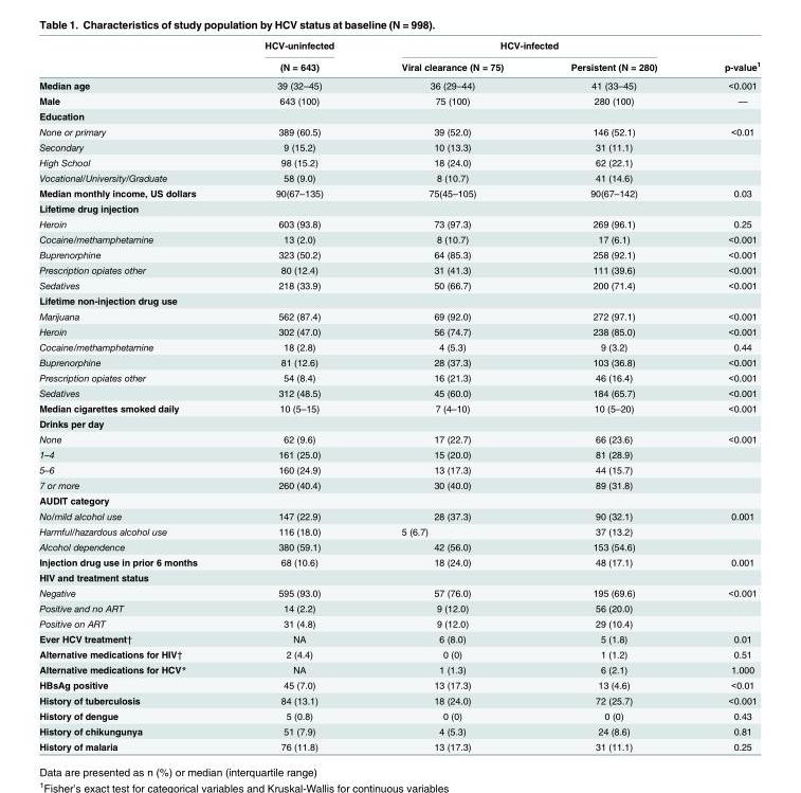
<table><thead><tr><td rowspan="2"></td><td rowspan="2">HCV-uninfected (N = 643)</td><td colspan="2">HCV-infected</td><td rowspan="2">p-value<sup>1</sup></td></tr><tr><td>Viral clearance (N = 75)</td><td>Persistent (N = 280)</td></tr></thead><tbody><tr><td>Median age</td><td>39 (32–45)</td><td>36 (29–44)</td><td>41 (33–45)</td><td>&lt;0.001</td></tr><tr><td>Male</td><td>643 (100)</td><td>75 (100)</td><td>280 (100)</td><td>—</td></tr><tr><td colspan="5">Education</td></tr><tr><td>None or primary</td><td>389 (60.5)</td><td>39 (52.0)</td><td>146 (52.1)</td><td>&lt;0.01</td></tr><tr><td>Secondary</td><td>9 (15.2)</td><td>10 (13.3)</td><td>31 (11.1)</td><td></td></tr><tr><td>High School</td><td>98 (15.2)</td><td>18 (24.0)</td><td>62 (22.1)</td><td></td></tr><tr><td>Vocational/University/Graduate</td><td>58 (9.0)</td><td>8 (10.7)</td><td>41 (14.6)</td><td></td></tr><tr><td>Median monthly income, US dollars</td><td>90(67–135)</td><td>75(45–105)</td><td>90(67–142)</td><td>0.03</td></tr><tr><td colspan="5">Lifetime drug injection</td></tr><tr><td>Heroin</td><td>603 (93.8)</td><td>73 (97.3)</td><td>269 (96.1)</td><td>0.25</td></tr><tr><td>Cocaine/methamphetamine</td><td>13 (2.0)</td><td>8 (10.7)</td><td>17 (6.1)</td><td>&lt;0.001</td></tr><tr><td>Buprenorphine</td><td>323 (50.2)</td><td>64 (85.3)</td><td>258 (92.1)</td><td>&lt;0.001</td></tr><tr><td>Prescription opiates other</td><td>80 (12.4)</td><td>31 (41.3)</td><td>111 (39.6)</td><td>&lt;0.001</td></tr><tr><td>Sedatives</td><td>218 (33.9)</td><td>50 (66.7)</td><td>200 (71.4)</td><td>&lt;0.001</td></tr><tr><td colspan="5">Lifetime non-injection drug use</td></tr><tr><td>Marijuana</td><td>562 (87.4)</td><td>69 (92.0)</td><td>272 (97.1)</td><td>&lt;0.001</td></tr><tr><td>Heroin</td><td>302 (47.0)</td><td>56 (74.7)</td><td>238 (85.0)</td><td>&lt;0.001</td></tr><tr><td>Cocaine/methamphetamine</td><td>18 (2.8)</td><td>4 (5.3)</td><td>9 (3.2)</td><td>0.44</td></tr><tr><td>Buprenorphine</td><td>81 (12.6)</td><td>28 (37.3)</td><td>103 (36.8)</td><td>&lt;0.001</td></tr><tr><td>Prescription opiates other</td><td>54 (8.4)</td><td>16 (21.3)</td><td>46 (16.4)</td><td>&lt;0.001</td></tr><tr><td>Sedatives</td><td>312 (48.5)</td><td>45 (60.0)</td><td>184 (65.7)</td><td>&lt;0.001</td></tr><tr><td>Median cigarettes smoked daily</td><td>10 (5–15)</td><td>7 (4–10)</td><td>10 (5–20)</td><td>&lt;0.001</td></tr><tr><td colspan="5">Drinks per day</td></tr><tr><td>None</td><td>62 (9.6)</td><td>17 (22.7)</td><td>66 (23.6)</td><td>&lt;0.001</td></tr><tr><td>1–4</td><td>161 (25.0)</td><td>15 (20.0)</td><td>81 (28.9)</td><td></td></tr><tr><td>5–6</td><td>160 (24.9)</td><td>13 (17.3)</td><td>44 (15.7)</td><td></td></tr><tr><td>7 or more</td><td>260 (40.4)</td><td>30 (40.0)</td><td>89 (31.8)</td><td></td></tr><tr><td colspan="5">AUDIT category</td></tr><tr><td>No/mild alcohol use</td><td>147 (22.9)</td><td>28 (37.3)</td><td>90 (32.1)</td><td>0.001</td></tr><tr><td>Harmful/hazardous alcohol use</td><td>116 (18.0)</td><td>5 (6.7)</td><td>37 (13.2)</td><td></td></tr><tr><td>Alcohol dependence</td><td>380 (59.1)</td><td>42 (56.0)</td><td>153 (54.6)</td><td></td></tr><tr><td>Injection drug use in prior 6 months</td><td>68 (10.6)</td><td>18 (24.0)</td><td>48 (17.1)</td><td>0.001</td></tr><tr><td colspan="5">HIV and treatment status</td></tr><tr><td>Negative</td><td>595 (93.0)</td><td>57 (76.0)</td><td>195 (69.6)</td><td>&lt;0.001</td></tr><tr><td>Positive and no ART</td><td>14 (2.2)</td><td>9 (12.0)</td><td>56 (20.0)</td><td></td></tr><tr><td>Positive on ART</td><td>31 (4.8)</td><td>9 (12.0)</td><td>29 (10.4)</td><td></td></tr><tr><td>Ever HCV treatment†</td><td>NA</td><td>6 (8.0)</td><td>5 (1.8)</td><td>0.01</td></tr><tr><td>Alternative medications for HIV†</td><td>2 (4.4)</td><td>0 (0)</td><td>1 (1.2)</td><td>0.51</td></tr><tr><td>Alternative medications for HCV*</td><td>NA</td><td>1 (1.3)</td><td>6 (2.1)</td><td>1.000</td></tr><tr><td>HBsAg positive</td><td>45 (7.0)</td><td>13 (17.3)</td><td>13 (4.6)</td><td>&lt;0.01</td></tr><tr><td>History of tuberculosis</td><td>84 (13.1)</td><td>18 (24.0)</td><td>72 (25.7)</td><td>&lt;0.001</td></tr><tr><td>History of dengue</td><td>5 (0.8)</td><td>0 (0)</td><td>0 (0)</td><td>0.43</td></tr><tr><td>History of chikungunya</td><td>51 (7.9)</td><td>4 (5.3)</td><td>24 (8.6)</td><td>0.81</td></tr><tr><td>History of malaria</td><td>76 (11.8)</td><td>13 (17.3)</td><td>31 (11.1)</td><td>0.25</td></tr></tbody></table>